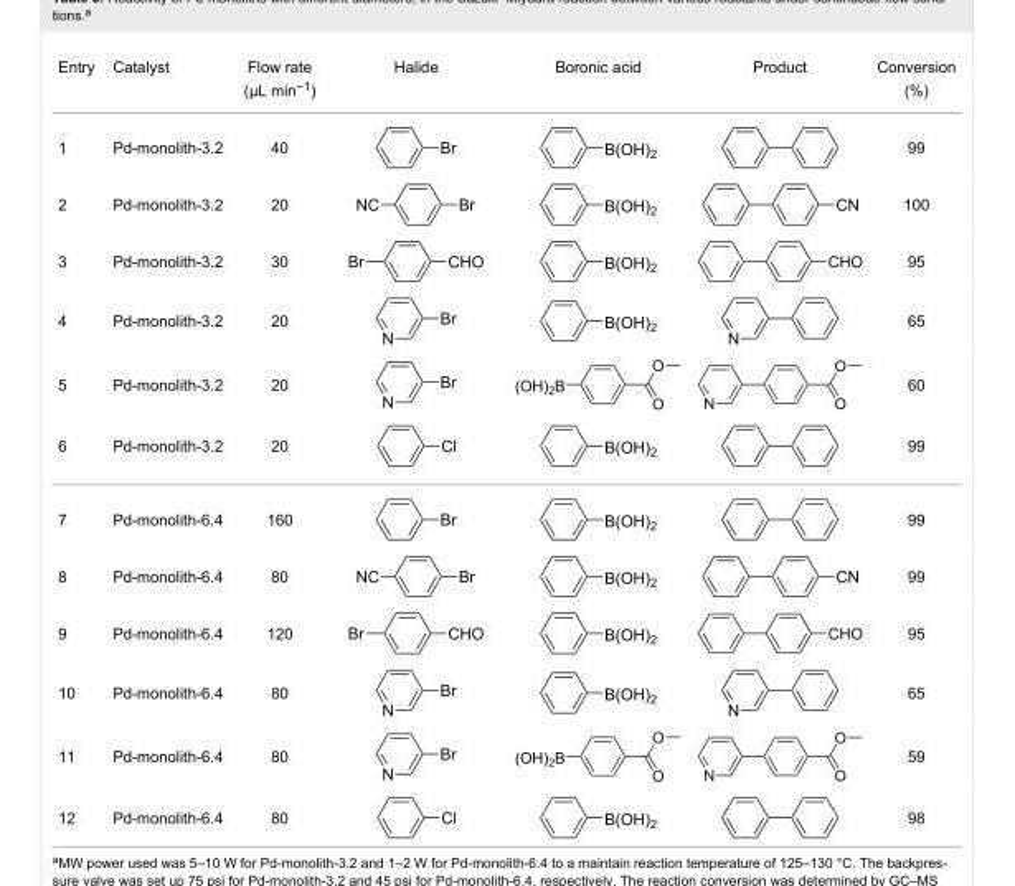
<table><tbody><tr><td>Entry</td><td>Catalyst</td><td>Flow rate</td><td>Halide</td><td>Boronic acid</td><td>Product</td><td>Conversion</td></tr><tr><td colspan="2"></td><td>(μL min<sup>−1</sup>)</td><td colspan="3"></td><td>(%)</td></tr><tr><td>1</td><td>Pd-monolith-3.2</td><td>40</td><td></td><td></td><td></td><td>99</td></tr><tr><td>2</td><td>Pd-monolith-3.2</td><td>20</td><td></td><td></td><td></td><td>100</td></tr><tr><td>3</td><td>Pd-monolith-3.2</td><td>30</td><td></td><td></td><td></td><td>95</td></tr><tr><td>4</td><td>Pd-monolith-3.2</td><td>20</td><td></td><td></td><td></td><td>65</td></tr><tr><td>5</td><td>Pd-monolith-3.2</td><td>20</td><td></td><td></td><td></td><td>60</td></tr><tr><td>6</td><td>Pd-monolith-3.2</td><td>20</td><td></td><td></td><td></td><td>99</td></tr><tr><td>7</td><td>Pd-monolith-6.4</td><td>160</td><td></td><td></td><td></td><td>99</td></tr><tr><td>8</td><td>Pd-monolith-6.4</td><td>80</td><td></td><td></td><td></td><td>99</td></tr><tr><td>9</td><td>Pd-monolith-6.4</td><td>120</td><td></td><td></td><td></td><td>95</td></tr><tr><td>10</td><td>Pd-monolith-6.4</td><td>80</td><td></td><td></td><td></td><td>65</td></tr><tr><td>11</td><td>Pd-monolith-6.4</td><td>80</td><td></td><td></td><td></td><td>59</td></tr><tr><td>12</td><td>Pd-monolith-6.4</td><td>80</td><td></td><td></td><td></td><td>98</td></tr></tbody></table>